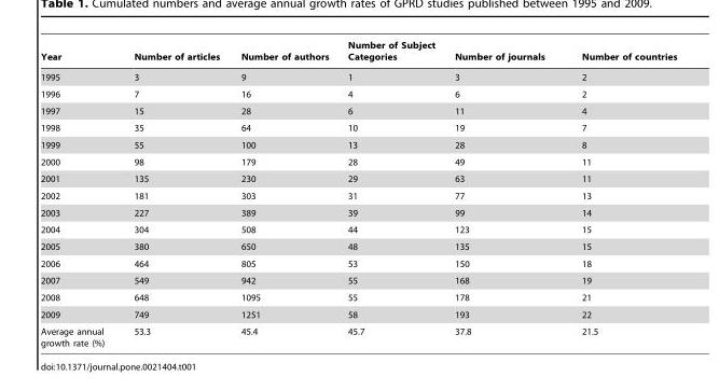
<table><thead><tr><td>Year</td><td>Number of articles</td><td>Number of authors</td><td>Number of Subject Categories</td><td>Number of journals</td><td>Number of countries</td></tr></thead><tbody><tr><td>1995</td><td>3</td><td>9</td><td>1</td><td>3</td><td>2</td></tr><tr><td>1996</td><td>7</td><td>16</td><td>4</td><td>6</td><td>2</td></tr><tr><td>1997</td><td>15</td><td>28</td><td>6</td><td>11</td><td>4</td></tr><tr><td>1998</td><td>35</td><td>64</td><td>10</td><td>19</td><td>7</td></tr><tr><td>1999</td><td>55</td><td>100</td><td>13</td><td>28</td><td>8</td></tr><tr><td>2000</td><td>98</td><td>179</td><td>28</td><td>49</td><td>11</td></tr><tr><td>2001</td><td>135</td><td>230</td><td>29</td><td>63</td><td>11</td></tr><tr><td>2002</td><td>181</td><td>303</td><td>31</td><td>77</td><td>13</td></tr><tr><td>2003</td><td>227</td><td>389</td><td>39</td><td>99</td><td>14</td></tr><tr><td>2004</td><td>304</td><td>508</td><td>44</td><td>123</td><td>15</td></tr><tr><td>2005</td><td>380</td><td>650</td><td>48</td><td>135</td><td>15</td></tr><tr><td>2006</td><td>464</td><td>805</td><td>53</td><td>150</td><td>18</td></tr><tr><td>2007</td><td>549</td><td>942</td><td>55</td><td>168</td><td>19</td></tr><tr><td>2008</td><td>648</td><td>1095</td><td>55</td><td>178</td><td>21</td></tr><tr><td>2009</td><td>749</td><td>1251</td><td>58</td><td>193</td><td>22</td></tr><tr><td>Average annual growth rate (%)</td><td>53.3</td><td>45.4</td><td>45.7</td><td>37.8</td><td>21.5</td></tr></tbody></table>